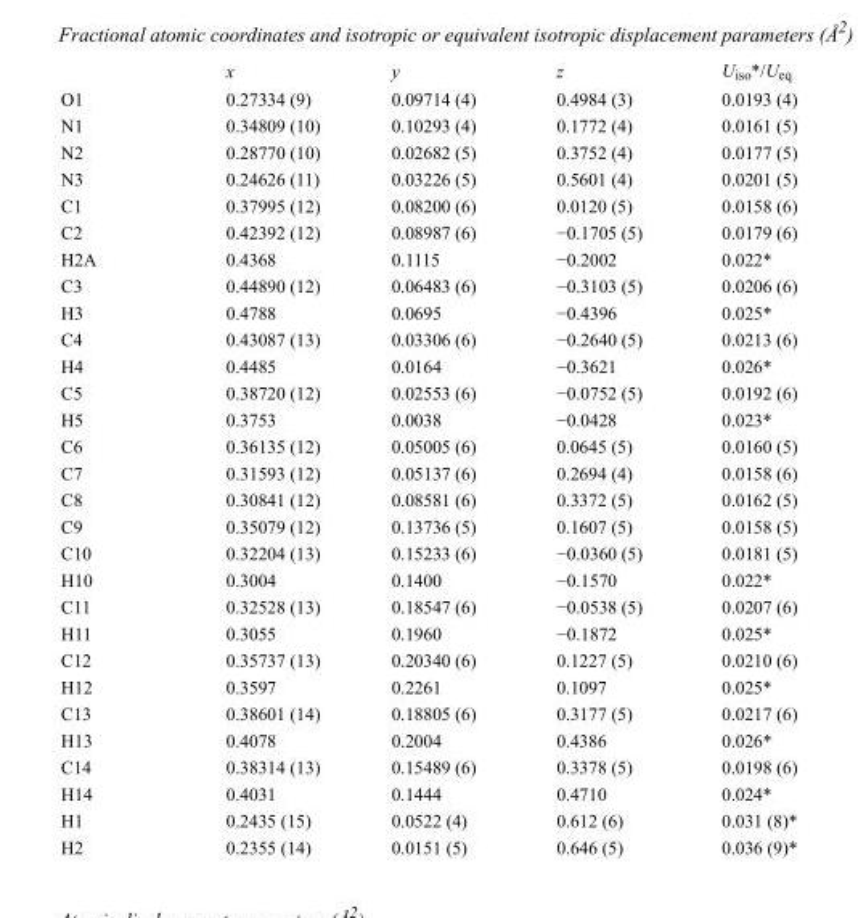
<table><thead><tr><td></td><td>x</td><td>y</td><td>z</td><td>U<sub>iso</sub>*/U<sub>eq</sub></td></tr></thead><tbody><tr><td>O1</td><td>0.27334 (9)</td><td>0.09714 (4)</td><td>0.4984 (3)</td><td>0.0193 (4)</td></tr><tr><td>N1</td><td>0.34809 (10)</td><td>0.10293 (4)</td><td>0.1772 (4)</td><td>0.0161 (5)</td></tr><tr><td>N2</td><td>0.28770 (10)</td><td>0.02682 (5)</td><td>0.3752 (4)</td><td>0.0177 (5)</td></tr><tr><td>N3</td><td>0.24626 (11)</td><td>0.03226 (5)</td><td>0.5601 (4)</td><td>0.0201 (5)</td></tr><tr><td>C1</td><td>0.37995 (12)</td><td>0.08200 (6)</td><td>0.0120 (5)</td><td>0.0158 (6)</td></tr><tr><td>C2</td><td>0.42392 (12)</td><td>0.08987 (6)</td><td>−0.1705 (5)</td><td>0.0179 (6)</td></tr><tr><td>H2A</td><td>0.4368</td><td>0.1115</td><td>−0.2002</td><td>0.022*</td></tr><tr><td>C3</td><td>0.44890 (12)</td><td>0.06483 (6)</td><td>−0.3103 (5)</td><td>0.0206 (6)</td></tr><tr><td>H3</td><td>0.4788</td><td>0.0695</td><td>−0.4396</td><td>0.025*</td></tr><tr><td>C4</td><td>0.43087 (13)</td><td>0.03306 (6)</td><td>−0.2640 (5)</td><td>0.0213 (6)</td></tr><tr><td>H4</td><td>0.4485</td><td>0.0164</td><td>−0.3621</td><td>0.026*</td></tr><tr><td>C5</td><td>0.38720 (12)</td><td>0.02553 (6)</td><td>−0.0752 (5)</td><td>0.0192 (6)</td></tr><tr><td>H5</td><td>0.3753</td><td>0.0038</td><td>−0.0428</td><td>0.023*</td></tr><tr><td>C6</td><td>0.36135 (12)</td><td>0.05005 (6)</td><td>0.0645 (5)</td><td>0.0160 (5)</td></tr><tr><td>C7</td><td>0.31593 (12)</td><td>0.05137 (6)</td><td>0.2694 (4)</td><td>0.0158 (6)</td></tr><tr><td>C8</td><td>0.30841 (12)</td><td>0.08581 (6)</td><td>0.3372 (5)</td><td>0.0162 (5)</td></tr><tr><td>C9</td><td>0.35079 (12)</td><td>0.13736 (5)</td><td>0.1607 (5)</td><td>0.0158 (5)</td></tr><tr><td>C10</td><td>0.32204 (13)</td><td>0.15233 (6)</td><td>−0.0360 (5)</td><td>0.0181 (5)</td></tr><tr><td>H10</td><td>0.3004</td><td>0.1400</td><td>−0.1570</td><td>0.022*</td></tr><tr><td>C11</td><td>0.32528 (13)</td><td>0.18547 (6)</td><td>−0.0538 (5)</td><td>0.0207 (6)</td></tr><tr><td>H11</td><td>0.3055</td><td>0.1960</td><td>−0.1872</td><td>0.025*</td></tr><tr><td>C12</td><td>0.35737 (13)</td><td>0.20340 (6)</td><td>0.1227 (5)</td><td>0.0210 (6)</td></tr><tr><td>H12</td><td>0.3597</td><td>0.2261</td><td>0.1097</td><td>0.025*</td></tr><tr><td>C13</td><td>0.38601 (14)</td><td>0.18805 (6)</td><td>0.3177 (5)</td><td>0.0217 (6)</td></tr><tr><td>H13</td><td>0.4078</td><td>0.2004</td><td>0.4386</td><td>0.026*</td></tr><tr><td>C14</td><td>0.38314 (13)</td><td>0.15489 (6)</td><td>0.3378 (5)</td><td>0.0198 (6)</td></tr><tr><td>H14</td><td>0.4031</td><td>0.1444</td><td>0.4710</td><td>0.024*</td></tr><tr><td>H1</td><td>0.2435 (15)</td><td>0.0522 (4)</td><td>0.612 (6)</td><td>0.031 (8)*</td></tr><tr><td>H2</td><td>0.2355 (14)</td><td>0.0151 (5)</td><td>0.646 (5)</td><td>0.036 (9)*</td></tr></tbody></table>